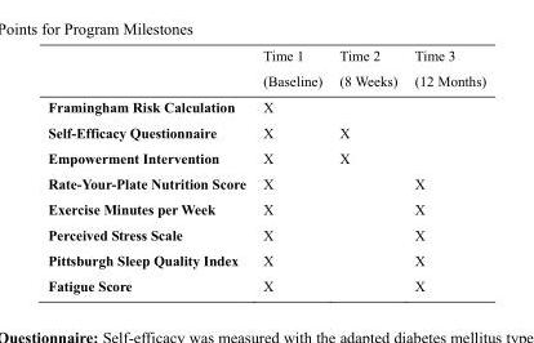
<table><thead><tr><td></td><td>Time 1 (Baseline)</td><td>Time 2 (8 Weeks)</td><td>Time 3 (12 Months)</td></tr></thead><tbody><tr><td>Framingham Risk Calculation</td><td>X</td><td></td><td></td></tr><tr><td>Self-Efficacy Questionnaire</td><td>X</td><td>X</td><td></td></tr><tr><td>Empowerment Intervention</td><td>X</td><td>X</td><td></td></tr><tr><td>Rate-Your-Plate Nutrition Score</td><td>X</td><td></td><td>X</td></tr><tr><td>Exercise Minutes per Week</td><td>X</td><td></td><td>X</td></tr><tr><td>Perceived Stress Scale</td><td>X</td><td></td><td>X</td></tr><tr><td>Pittsburgh Sleep Quality Index</td><td>X</td><td></td><td>X</td></tr><tr><td>Fatigue Score</td><td>X</td><td></td><td>X</td></tr></tbody></table>